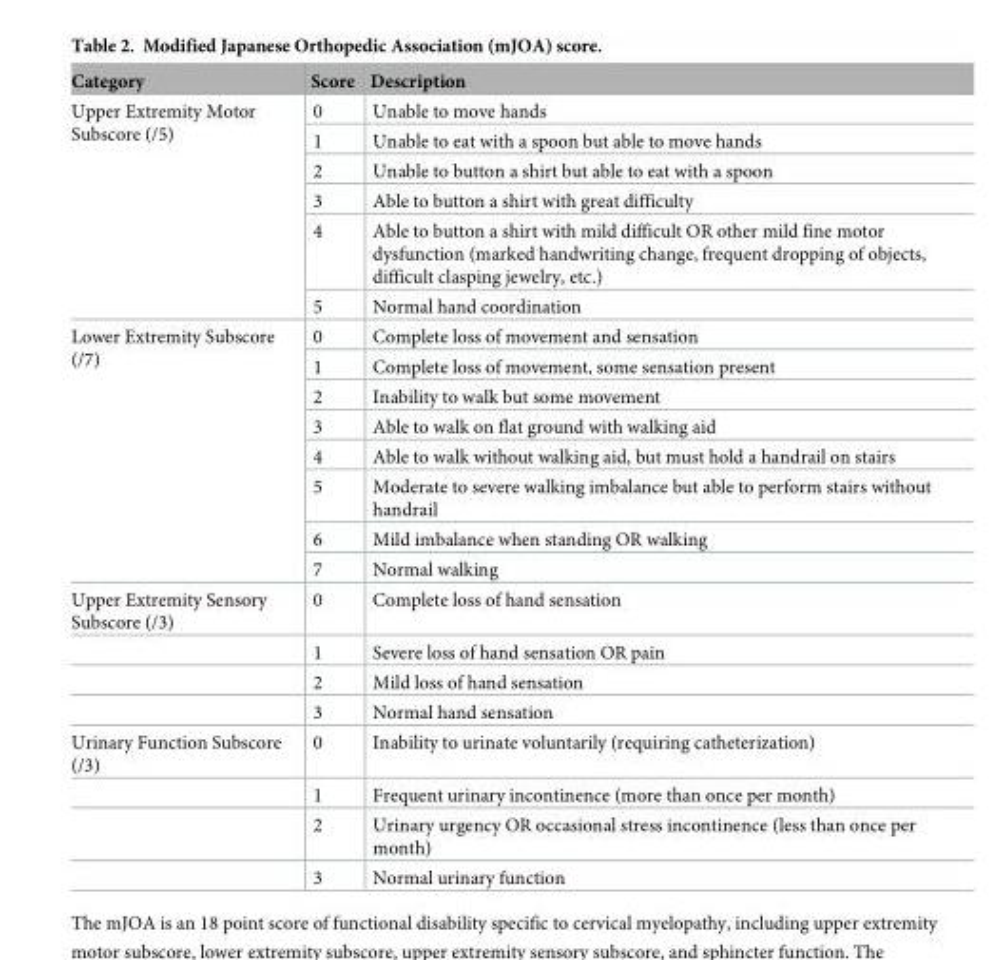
<table><thead><tr><td>Category</td><td>Score</td><td>Description</td></tr></thead><tbody><tr><td rowspan="6">Upper Extremity Motor Subscore (/5)</td><td>0</td><td>Unable to move hands</td></tr><tr><td>1</td><td>Unable to eat with a spoon but able to move hands</td></tr><tr><td>2</td><td>Unable to button a shirt but able to eat with a spoon</td></tr><tr><td>3</td><td>Able to button a shirt with great difficulty</td></tr><tr><td>4</td><td>Able to button a shirt with mild difficult OR other mild fine motor dysfunction (marked handwriting change, frequent dropping of objects, difficult clasping jewelry, etc.)</td></tr><tr><td>5</td><td>Normal hand coordination</td></tr><tr><td rowspan="8">Lower Extremity Subscore (/7)</td><td>0</td><td>Complete loss of movement and sensation</td></tr><tr><td>1</td><td>Complete loss of movement, some sensation present</td></tr><tr><td>2</td><td>Inability to walk but some movement</td></tr><tr><td>3</td><td>Able to walk on flat ground with walking aid</td></tr><tr><td>4</td><td>Able to walk without walking aid, but must hold a handrail on stairs</td></tr><tr><td>5</td><td>Moderate to severe walking imbalance but able to perform stairs without handrail</td></tr><tr><td>6</td><td>Mild imbalance when standing OR walking</td></tr><tr><td>7</td><td>Normal walking</td></tr><tr><td rowspan="4">Upper Extremity Sensory Subscore (/3)</td><td>0</td><td>Complete loss of hand sensation</td></tr><tr><td>1</td><td>Severe loss of hand sensation OR pain</td></tr><tr><td>2</td><td>Mild loss of hand sensation</td></tr><tr><td>3</td><td>Normal hand sensation</td></tr><tr><td rowspan="4">Urinary Function Subscore (/3)</td><td>0</td><td>Inability to urinate voluntarily (requiring catheterization)</td></tr><tr><td>1</td><td>Frequent urinary incontinence (more than once per month)</td></tr><tr><td>2</td><td>Urinary urgency OR occasional stress incontinence (less than once per month)</td></tr><tr><td>3</td><td>Normal urinary function</td></tr></tbody></table>